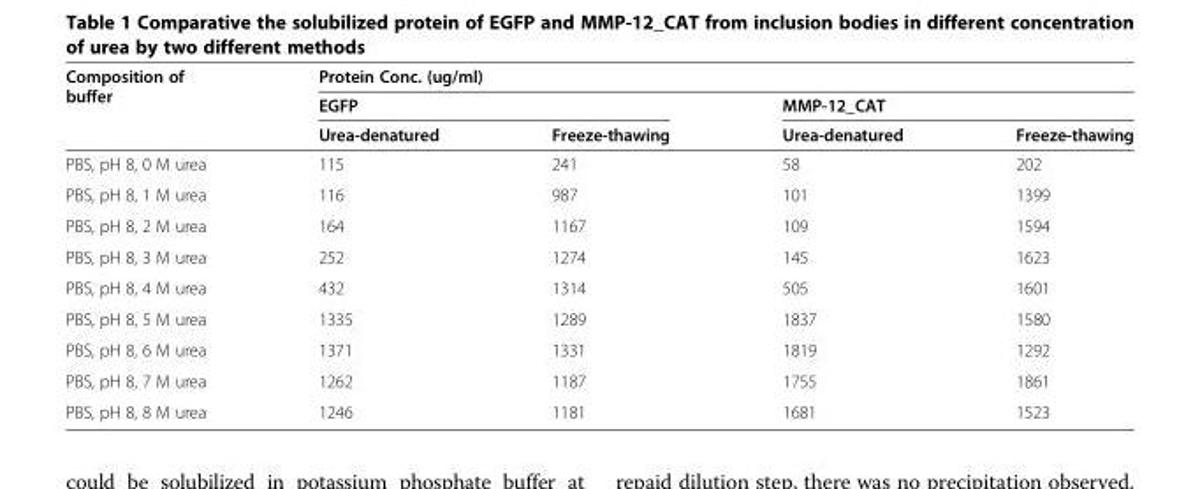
<table><thead><tr><td rowspan="3">Composition of buffer</td><td colspan="4">Protein Conc. (ug/ml)</td></tr><tr><td colspan="2">EGFP</td><td colspan="2">MMP-12_CAT</td></tr><tr><td>Urea-denatured</td><td>Freeze-thawing</td><td>Urea-denatured</td><td>Freeze-thawing</td></tr></thead><tbody><tr><td>PBS, pH 8, 0 M urea</td><td>115</td><td>241</td><td>58</td><td>202</td></tr><tr><td>PBS, pH 8, 1 M urea</td><td>116</td><td>987</td><td>101</td><td>1399</td></tr><tr><td>PBS, pH 8, 2 M urea</td><td>164</td><td>1167</td><td>109</td><td>1594</td></tr><tr><td>PBS, pH 8, 3 M urea</td><td>252</td><td>1274</td><td>145</td><td>1623</td></tr><tr><td>PBS, pH 8, 4 M urea</td><td>432</td><td>1314</td><td>505</td><td>1601</td></tr><tr><td>PBS, pH 8, 5 M urea</td><td>1335</td><td>1289</td><td>1837</td><td>1580</td></tr><tr><td>PBS, pH 8, 6 M urea</td><td>1371</td><td>1331</td><td>1819</td><td>1292</td></tr><tr><td>PBS, pH 8, 7 M urea</td><td>1262</td><td>1187</td><td>1755</td><td>1861</td></tr><tr><td>PBS, pH 8, 8 M urea</td><td>1246</td><td>1181</td><td>1681</td><td>1523</td></tr></tbody></table>